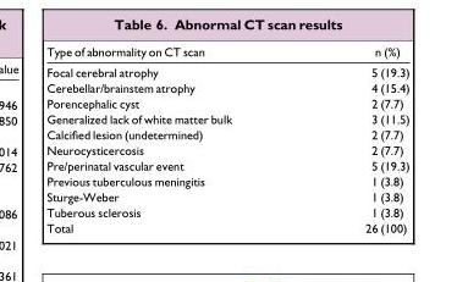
<table><thead><tr><td>Type of abnormality on CT scan</td><td>n (%)</td></tr></thead><tbody><tr><td>Focal cerebral atrophy</td><td>5 (19.3)</td></tr><tr><td>Cerebellar/brainstem atrophy</td><td>4 (15.4)</td></tr><tr><td>Porencephalic cyst</td><td>2 (7.7)</td></tr><tr><td>Generalized lack of white matter bulk</td><td>3 (11.5)</td></tr><tr><td>Calcified lesion (undetermined)</td><td>2 (7.7)</td></tr><tr><td>Neurocysticercosis</td><td>2 (7.7)</td></tr><tr><td>Pre/perinatal vascular event</td><td>5 (19.3)</td></tr><tr><td>Previous tuberculous meningitis</td><td>1 (3.8)</td></tr><tr><td>Sturge-Weber</td><td>1 (3.8)</td></tr><tr><td>Tuberous sclerosis</td><td>1 (3.8)</td></tr><tr><td>Total</td><td>26 (100)</td></tr></tbody></table>